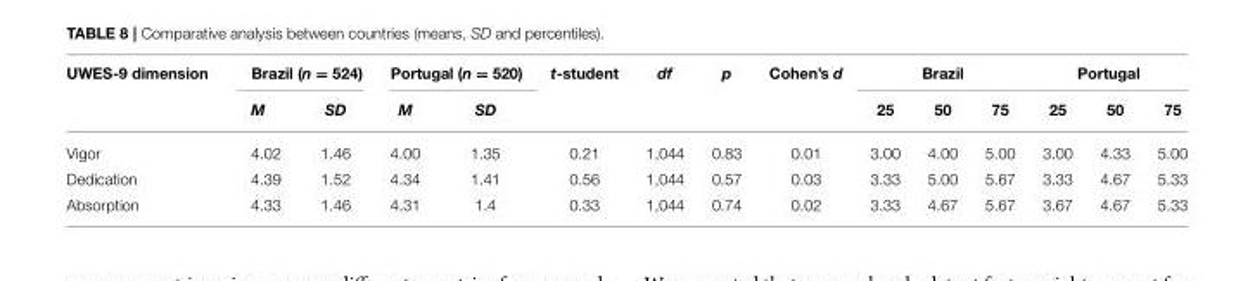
<table><thead><tr><td rowspan="2">UWES-9 dimension</td><td colspan="2">Brazil (n = 524)</td><td colspan="2">Portugal (n = 520)</td><td rowspan="2">t-student</td><td rowspan="2">df</td><td rowspan="2">p</td><td rowspan="2">Cohen’s d</td><td colspan="3">Brazil</td><td colspan="3">Portugal</td></tr><tr><td>M</td><td>SD</td><td>M</td><td>SD</td><td>25</td><td>50</td><td>75</td><td>25</td><td>50</td><td>75</td></tr></thead><tbody><tr><td>Vigor</td><td>4.02</td><td>1.46</td><td>4.00</td><td>1.35</td><td>0.21</td><td>1,044</td><td>0.83</td><td>0.01</td><td>3.00</td><td>4.00</td><td>5.00</td><td>3.00</td><td>4.33</td><td>5.00</td></tr><tr><td>Dedication</td><td>4.39</td><td>1.52</td><td>4.34</td><td>1.41</td><td>0.56</td><td>1,044</td><td>0.57</td><td>0.03</td><td>3.33</td><td>5.00</td><td>5.67</td><td>3.33</td><td>4.67</td><td>5.33</td></tr><tr><td>Absorption</td><td>4.33</td><td>1.46</td><td>4.31</td><td>1.4</td><td>0.33</td><td>1,044</td><td>0.74</td><td>0.02</td><td>3.33</td><td>4.67</td><td>5.67</td><td>3.67</td><td>4.67</td><td>5.33</td></tr></tbody></table>